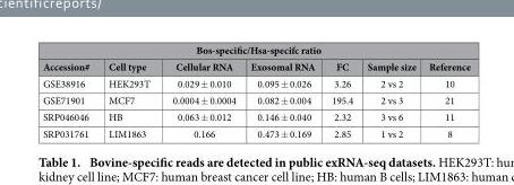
<table><thead><tr><td colspan="7">Bos-specific/Hsa-specifc ratio</td></tr><tr><td>Accession#</td><td>Cell type</td><td>Cellular RNA</td><td>Exosomal RNA</td><td>FC</td><td>Sample size</td><td>Reference</td></tr></thead><tbody><tr><td>GSE38916</td><td>HEK293T</td><td>0.029 ± 0.010</td><td>0.095 ± 0.026</td><td>3.26</td><td>2 vs 2</td><td><sup>10</sup></td></tr><tr><td>GSE71901</td><td>MCF7</td><td>0.0004 ± 0.0004</td><td>0.082 ± 0.004</td><td>195.4</td><td>2 vs 3</td><td><sup>21</sup></td></tr><tr><td>SRP046046</td><td>HB</td><td>0.063 ± 0.012</td><td>0.146 ± 0.040</td><td>2.32</td><td>3 vs 6</td><td><sup>11</sup></td></tr><tr><td>SRP031761</td><td>LIM1863</td><td>0.166</td><td>0.473 ± 0.169</td><td>2.85</td><td>1 vs 2</td><td><sup>8</sup></td></tr></tbody></table>